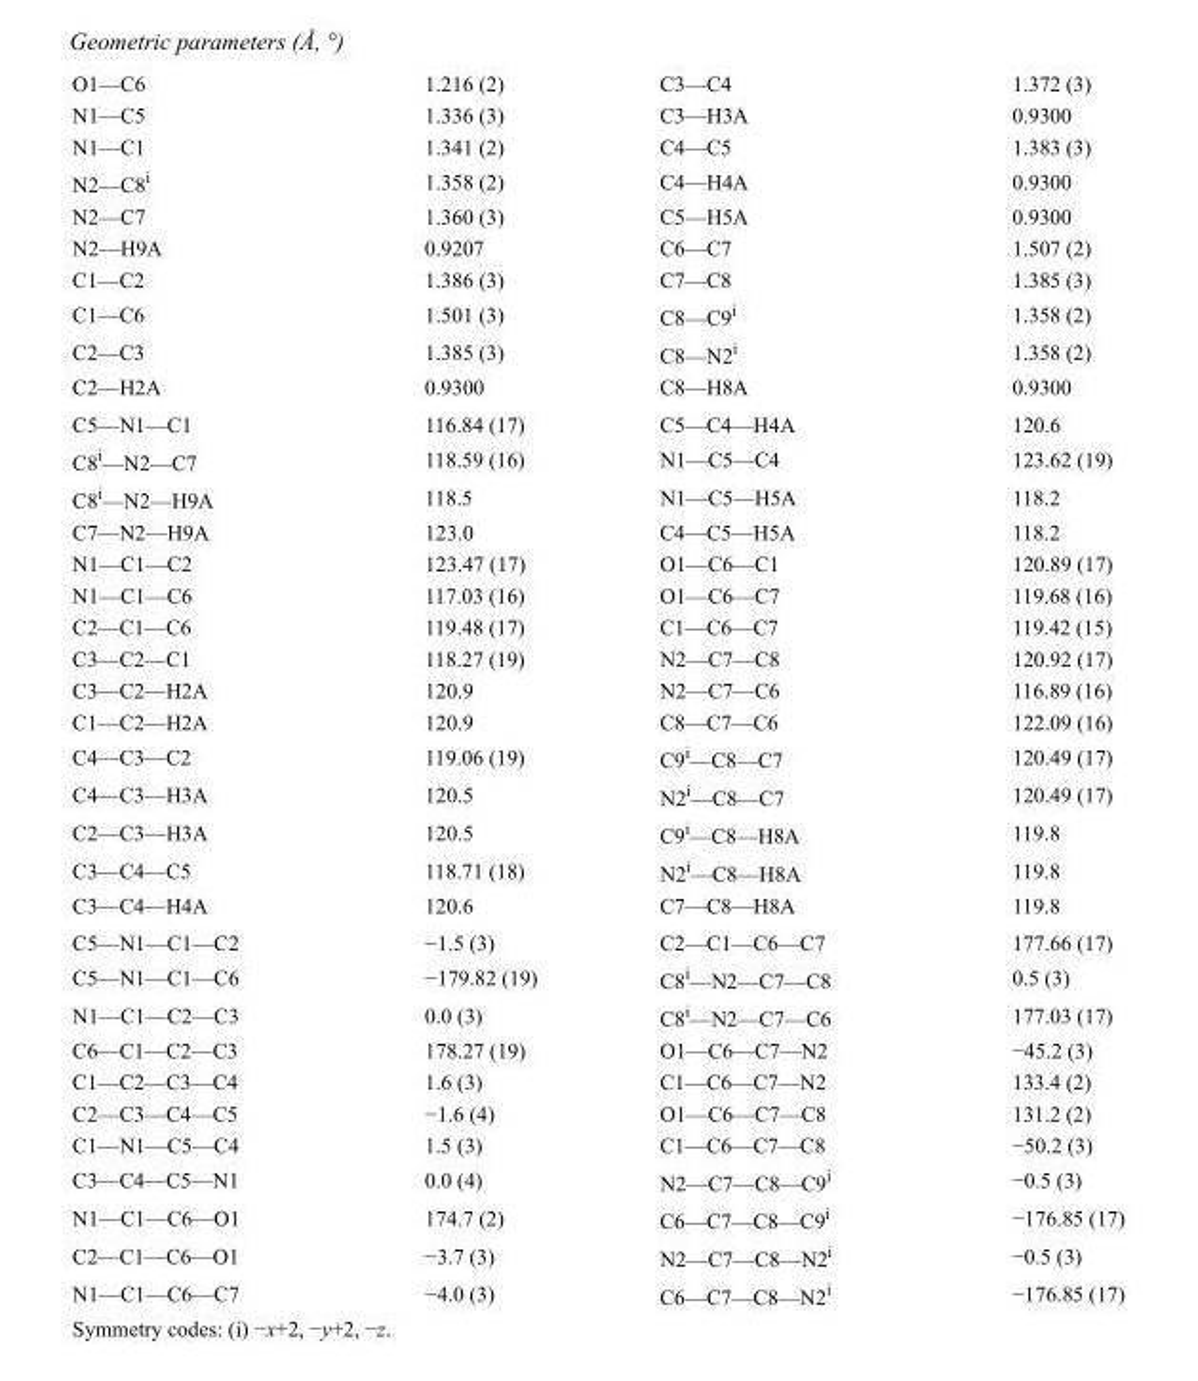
<table><tbody><tr><td>O1—C6</td><td>1.216 (2)</td><td>C3—C4</td><td>1.372 (3)</td></tr><tr><td>N1—C5</td><td>1.336 (3)</td><td>C3—H3A</td><td>0.9300</td></tr><tr><td>N1—C1</td><td>1.341 (2)</td><td>C4—C5</td><td>1.383 (3)</td></tr><tr><td>N2—C8<sup>i</sup></td><td>1.358 (2)</td><td>C4—H4A</td><td>0.9300</td></tr><tr><td>N2—C7</td><td>1.360 (3)</td><td>C5—H5A</td><td>0.9300</td></tr><tr><td>N2—H9A</td><td>0.9207</td><td>C6—C7</td><td>1.507 (2)</td></tr><tr><td>C1—C2</td><td>1.386 (3)</td><td>C7—C8</td><td>1.385 (3)</td></tr><tr><td>C1—C6</td><td>1.501 (3)</td><td>C8—C9<sup>i</sup></td><td>1.358 (2)</td></tr><tr><td>C2—C3</td><td>1.385 (3)</td><td>C8—N2<sup>i</sup></td><td>1.358 (2)</td></tr><tr><td>C2—H2A</td><td>0.9300</td><td>C8—H8A</td><td>0.9300</td></tr><tr><td>C5—N1—C1</td><td>116.84 (17)</td><td>C5—C4—H4A</td><td>120.6</td></tr><tr><td>C8<sup>i</sup>—N2—C7</td><td>118.59 (16)</td><td>N1—C5—C4</td><td>123.62 (19)</td></tr><tr><td>C8<sup>i</sup>—N2—H9A</td><td>118.5</td><td>N1—C5—H5A</td><td>118.2</td></tr><tr><td>C7—N2—H9A</td><td>123.0</td><td>C4—C5—H5A</td><td>118.2</td></tr><tr><td>N1—C1—C2</td><td>123.47 (17)</td><td>O1—C6—C1</td><td>120.89 (17)</td></tr><tr><td>N1—C1—C6</td><td>117.03 (16)</td><td>O1—C6—C7</td><td>119.68 (16)</td></tr><tr><td>C2—C1—C6</td><td>119.48 (17)</td><td>C1—C6—C7</td><td>119.42 (15)</td></tr><tr><td>C3—C2—C1</td><td>118.27 (19)</td><td>N2—C7—C8</td><td>120.92 (17)</td></tr><tr><td>C3—C2—H2A</td><td>120.9</td><td>N2—C7—C6</td><td>116.89 (16)</td></tr><tr><td>C1—C2—H2A</td><td>120.9</td><td>C8—C7—C6</td><td>122.09 (16)</td></tr><tr><td>C4—C3—C2</td><td>119.06 (19)</td><td>C9<sup>i</sup>—C8—C7</td><td>120.49 (17)</td></tr><tr><td>C4—C3—H3A</td><td>120.5</td><td>N2<sup>i</sup>—C8—C7</td><td>120.49 (17)</td></tr><tr><td>C2—C3—H3A</td><td>120.5</td><td>C9<sup>i</sup>—C8—H8A</td><td>119.8</td></tr><tr><td>C3—C4—C5</td><td>118.71 (18)</td><td>N2<sup>i</sup>—C8—H8A</td><td>119.8</td></tr><tr><td>C3—C4—H4A</td><td>120.6</td><td>C7—C8—H8A</td><td>119.8</td></tr><tr><td>C5—N1—C1—C2</td><td>−1.5 (3)</td><td>C2—C1—C6—C7</td><td>177.66 (17)</td></tr><tr><td>C5—N1—C1—C6</td><td>−179.82 (19)</td><td>C8<sup>i</sup>—N2—C7—C8</td><td>0.5 (3)</td></tr><tr><td>N1—C1—C2—C3</td><td>0.0 (3)</td><td>C8<sup>i</sup>—N2—C7—C6</td><td>177.03 (17)</td></tr><tr><td>C6—C1—C2—C3</td><td>178.27 (19)</td><td>O1—C6—C7—N2</td><td>−45.2 (3)</td></tr><tr><td>C1—C2—C3—C4</td><td>1.6 (3)</td><td>C1—C6—C7—N2</td><td>133.4 (2)</td></tr><tr><td>C2—C3—C4—C5</td><td>−1.6 (4)</td><td>O1—C6—C7—C8</td><td>131.2 (2)</td></tr><tr><td>C1—N1—C5—C4</td><td>1.5 (3)</td><td>C1—C6—C7—C8</td><td>−50.2 (3)</td></tr><tr><td>C3—C4—C5—N1</td><td>0.0 (4)</td><td>N2—C7—C8—C9<sup>i</sup></td><td>−0.5 (3)</td></tr><tr><td>N1—C1—C6—O1</td><td>174.7 (2)</td><td>C6—C7—C8—C9<sup>i</sup></td><td>−176.85 (17)</td></tr><tr><td>C2—C1—C6—O1</td><td>−3.7 (3)</td><td>N2—C7—C8—N2<sup>i</sup></td><td>−0.5 (3)</td></tr><tr><td>N1—C1—C6—C7</td><td>−4.0 (3)</td><td>C6—C7—C8—N2<sup>i</sup></td><td>−176.85 (17)</td></tr></tbody></table>